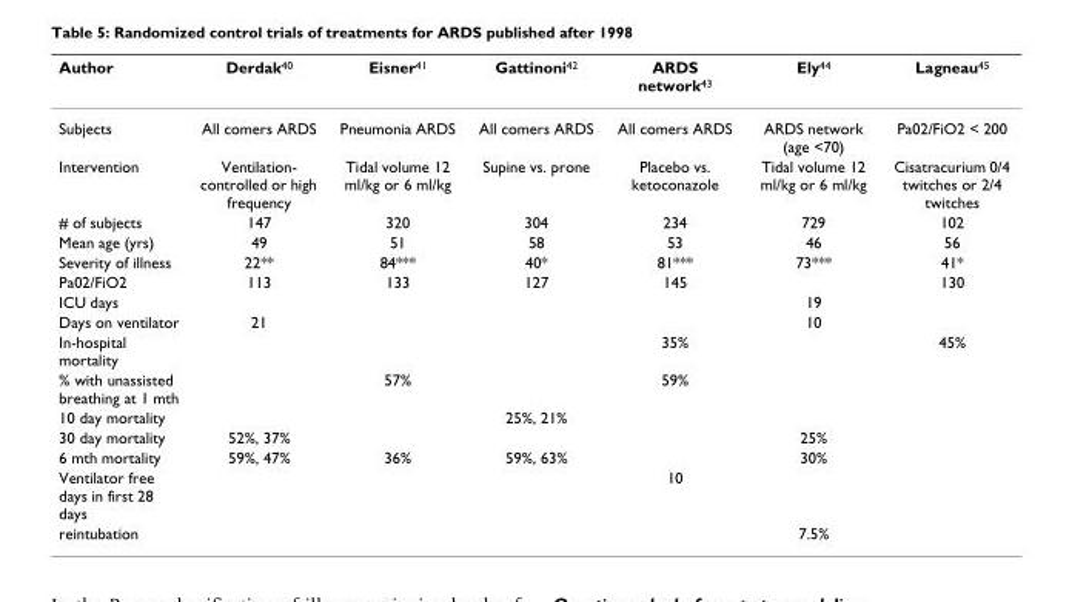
<table><thead><tr><td>Author</td><td>Derdak<sup>40</sup></td><td>Eisner<sup>41</sup></td><td>Gattinoni<sup>42</sup></td><td>ARDS network<sup>43</sup></td><td>Ely<sup>44</sup></td><td>Lagneau<sup>45</sup></td></tr></thead><tbody><tr><td>Subjects</td><td>All comers ARDS</td><td>Pneumonia ARDS</td><td>All comers ARDS</td><td>All comers ARDS</td><td>ARDS network (age &lt;70)</td><td>Pa02/FiO2 &lt; 200</td></tr><tr><td>Intervention</td><td>Ventilation- controlled or high frequency</td><td>Tidal volume 12 ml/kg or 6 ml/kg</td><td>Supine vs. prone</td><td>Placebo vs. ketoconazole</td><td>Tidal volume 12 ml/kg or 6 ml/kg</td><td>Cisatracurium 0/4 twitches or 2/4 twitches</td></tr><tr><td># of subjects</td><td>147</td><td>320</td><td>304</td><td>234</td><td>729</td><td>102</td></tr><tr><td>Mean age (yrs)</td><td>49</td><td>51</td><td>58</td><td>53</td><td>46</td><td>56</td></tr><tr><td>Severity of illness</td><td>22**</td><td>84***</td><td>40*</td><td>81***</td><td>73***</td><td>41*</td></tr><tr><td>Pa02/FiO2</td><td>113</td><td>133</td><td>127</td><td>145</td><td></td><td>130</td></tr><tr><td>ICU days</td><td></td><td></td><td></td><td></td><td>19</td><td></td></tr><tr><td>Days on ventilator</td><td>21</td><td></td><td></td><td></td><td>10</td><td></td></tr><tr><td>In-hospital mortality</td><td></td><td></td><td></td><td>35%</td><td></td><td>45%</td></tr><tr><td>% with unassisted breathing at 1 mth</td><td></td><td>57%</td><td></td><td>59%</td><td></td><td></td></tr><tr><td>10 day mortality</td><td></td><td></td><td>25%, 21%</td><td></td><td></td><td></td></tr><tr><td>30 day mortality</td><td>52%, 37%</td><td></td><td></td><td></td><td>25%</td><td></td></tr><tr><td>6 mth mortality</td><td>59%, 47%</td><td>36%</td><td>59%, 63%</td><td></td><td>30%</td><td></td></tr><tr><td>Ventilator free days in first 28 days</td><td></td><td></td><td></td><td>10</td><td></td><td></td></tr><tr><td>reintubation</td><td></td><td></td><td></td><td></td><td>7.5%</td><td></td></tr></tbody></table>